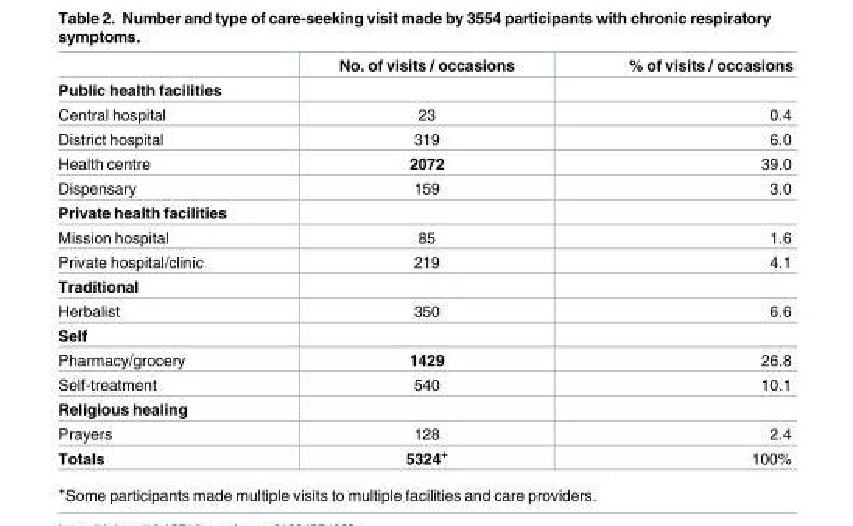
<table><thead><tr><td></td><td>No. of visits / occasions</td><td>% of visits / occasions</td></tr></thead><tbody><tr><td colspan="3">Public health facilities</td></tr><tr><td>Central hospital</td><td>23</td><td>0.4</td></tr><tr><td>District hospital</td><td>319</td><td>6.0</td></tr><tr><td>Health centre</td><td>2072</td><td>39.0</td></tr><tr><td>Dispensary</td><td>159</td><td>3.0</td></tr><tr><td colspan="3">Private health facilities</td></tr><tr><td>Mission hospital</td><td>85</td><td>1.6</td></tr><tr><td>Private hospital/clinic</td><td>219</td><td>4.1</td></tr><tr><td colspan="3">Traditional</td></tr><tr><td>Herbalist</td><td>350</td><td>6.6</td></tr><tr><td colspan="3">Self</td></tr><tr><td>Pharmacy/grocery</td><td>1429</td><td>26.8</td></tr><tr><td>Self-treatment</td><td>540</td><td>10.1</td></tr><tr><td colspan="3">Religious healing</td></tr><tr><td>Prayers</td><td>128</td><td>2.4</td></tr><tr><td>Totals</td><td>5324<sup>+</sup></td><td>100%</td></tr></tbody></table>